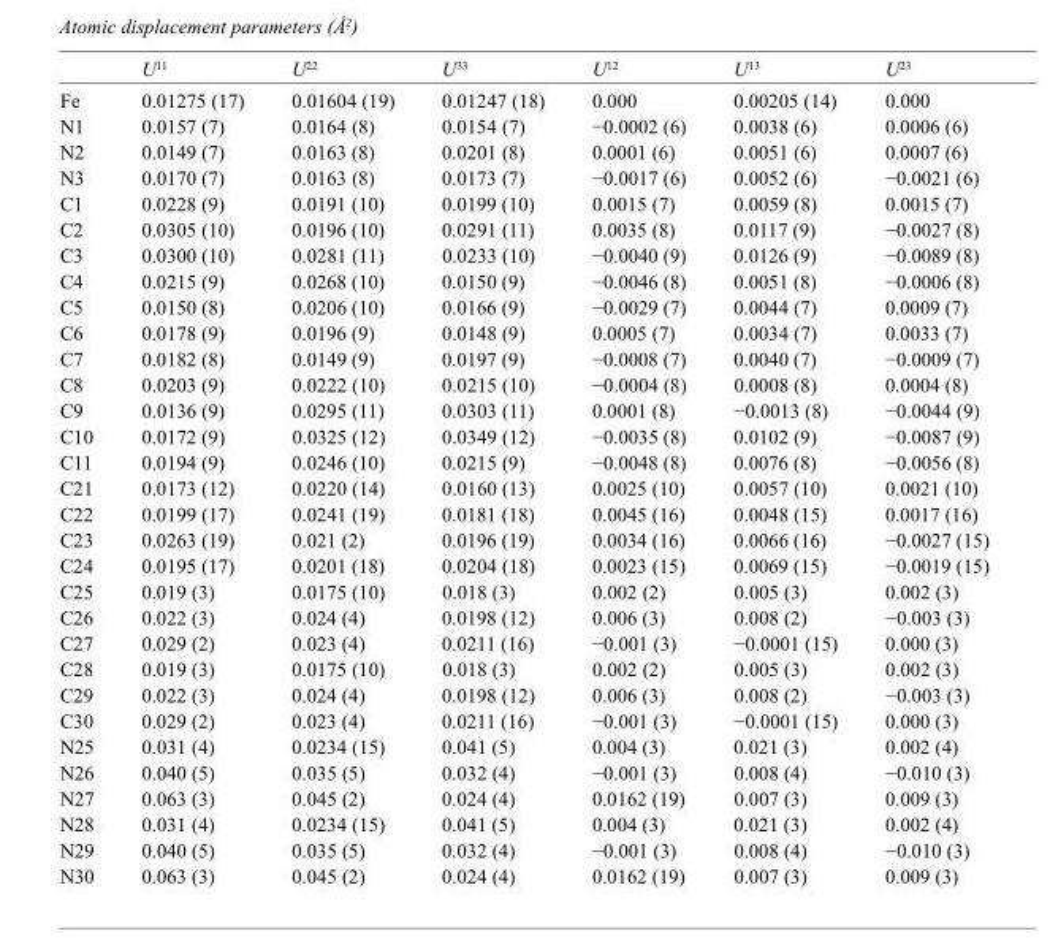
<table><thead><tr><td></td><td>U<sup>11</sup></td><td>U<sup>22</sup></td><td>U<sup>33</sup></td><td>U<sup>12</sup></td><td>U<sup>13</sup></td><td>U<sup>23</sup></td></tr></thead><tbody><tr><td>Fe</td><td>0.01275 (17)</td><td>0.01604 (19)</td><td>0.01247 (18)</td><td>0.000</td><td>0.00205 (14)</td><td>0.000</td></tr><tr><td>N1</td><td>0.0157 (7)</td><td>0.0164 (8)</td><td>0.0154 (7)</td><td>−0.0002 (6)</td><td>0.0038 (6)</td><td>0.0006 (6)</td></tr><tr><td>N2</td><td>0.0149 (7)</td><td>0.0163 (8)</td><td>0.0201 (8)</td><td>0.0001 (6)</td><td>0.0051 (6)</td><td>0.0007 (6)</td></tr><tr><td>N3</td><td>0.0170 (7)</td><td>0.0163 (8)</td><td>0.0173 (7)</td><td>−0.0017 (6)</td><td>0.0052 (6)</td><td>−0.0021 (6)</td></tr><tr><td>C1</td><td>0.0228 (9)</td><td>0.0191 (10)</td><td>0.0199 (10)</td><td>0.0015 (7)</td><td>0.0059 (8)</td><td>0.0015 (7)</td></tr><tr><td>C2</td><td>0.0305 (10)</td><td>0.0196 (10)</td><td>0.0291 (11)</td><td>0.0035 (8)</td><td>0.0117 (9)</td><td>−0.0027 (8)</td></tr><tr><td>C3</td><td>0.0300 (10)</td><td>0.0281 (11)</td><td>0.0233 (10)</td><td>−0.0040 (9)</td><td>0.0126 (9)</td><td>−0.0089 (8)</td></tr><tr><td>C4</td><td>0.0215 (9)</td><td>0.0268 (10)</td><td>0.0150 (9)</td><td>−0.0046 (8)</td><td>0.0051 (8)</td><td>−0.0006 (8)</td></tr><tr><td>C5</td><td>0.0150 (8)</td><td>0.0206 (10)</td><td>0.0166 (9)</td><td>−0.0029 (7)</td><td>0.0044 (7)</td><td>0.0009 (7)</td></tr><tr><td>C6</td><td>0.0178 (9)</td><td>0.0196 (9)</td><td>0.0148 (9)</td><td>0.0005 (7)</td><td>0.0034 (7)</td><td>0.0033 (7)</td></tr><tr><td>C7</td><td>0.0182 (8)</td><td>0.0149 (9)</td><td>0.0197 (9)</td><td>−0.0008 (7)</td><td>0.0040 (7)</td><td>−0.0009 (7)</td></tr><tr><td>C8</td><td>0.0203 (9)</td><td>0.0222 (10)</td><td>0.0215 (10)</td><td>−0.0004 (8)</td><td>0.0008 (8)</td><td>0.0004 (8)</td></tr><tr><td>C9</td><td>0.0136 (9)</td><td>0.0295 (11)</td><td>0.0303 (11)</td><td>0.0001 (8)</td><td>−0.0013 (8)</td><td>−0.0044 (9)</td></tr><tr><td>C10</td><td>0.0172 (9)</td><td>0.0325 (12)</td><td>0.0349 (12)</td><td>−0.0035 (8)</td><td>0.0102 (9)</td><td>−0.0087 (9)</td></tr><tr><td>C11</td><td>0.0194 (9)</td><td>0.0246 (10)</td><td>0.0215 (9)</td><td>−0.0048 (8)</td><td>0.0076 (8)</td><td>−0.0056 (8)</td></tr><tr><td>C21</td><td>0.0173 (12)</td><td>0.0220 (14)</td><td>0.0160 (13)</td><td>0.0025 (10)</td><td>0.0057 (10)</td><td>0.0021 (10)</td></tr><tr><td>C22</td><td>0.0199 (17)</td><td>0.0241 (19)</td><td>0.0181 (18)</td><td>0.0045 (16)</td><td>0.0048 (15)</td><td>0.0017 (16)</td></tr><tr><td>C23</td><td>0.0263 (19)</td><td>0.021 (2)</td><td>0.0196 (19)</td><td>0.0034 (16)</td><td>0.0066 (16)</td><td>−0.0027 (15)</td></tr><tr><td>C24</td><td>0.0195 (17)</td><td>0.0201 (18)</td><td>0.0204 (18)</td><td>0.0023 (15)</td><td>0.0069 (15)</td><td>−0.0019 (15)</td></tr><tr><td>C25</td><td>0.019 (3)</td><td>0.0175 (10)</td><td>0.018 (3)</td><td>0.002 (2)</td><td>0.005 (3)</td><td>0.002 (3)</td></tr><tr><td>C26</td><td>0.022 (3)</td><td>0.024 (4)</td><td>0.0198 (12)</td><td>0.006 (3)</td><td>0.008 (2)</td><td>−0.003 (3)</td></tr><tr><td>C27</td><td>0.029 (2)</td><td>0.023 (4)</td><td>0.0211 (16)</td><td>−0.001 (3)</td><td>−0.0001 (15)</td><td>0.000 (3)</td></tr><tr><td>C28</td><td>0.019 (3)</td><td>0.0175 (10)</td><td>0.018 (3)</td><td>0.002 (2)</td><td>0.005 (3)</td><td>0.002 (3)</td></tr><tr><td>C29</td><td>0.022 (3)</td><td>0.024 (4)</td><td>0.0198 (12)</td><td>0.006 (3)</td><td>0.008 (2)</td><td>−0.003 (3)</td></tr><tr><td>C30</td><td>0.029 (2)</td><td>0.023 (4)</td><td>0.0211 (16)</td><td>−0.001 (3)</td><td>−0.0001 (15)</td><td>0.000 (3)</td></tr><tr><td>N25</td><td>0.031 (4)</td><td>0.0234 (15)</td><td>0.041 (5)</td><td>0.004 (3)</td><td>0.021 (3)</td><td>0.002 (4)</td></tr><tr><td>N26</td><td>0.040 (5)</td><td>0.035 (5)</td><td>0.032 (4)</td><td>−0.001 (3)</td><td>0.008 (4)</td><td>−0.010 (3)</td></tr><tr><td>N27</td><td>0.063 (3)</td><td>0.045 (2)</td><td>0.024 (4)</td><td>0.0162 (19)</td><td>0.007 (3)</td><td>0.009 (3)</td></tr><tr><td>N28</td><td>0.031 (4)</td><td>0.0234 (15)</td><td>0.041 (5)</td><td>0.004 (3)</td><td>0.021 (3)</td><td>0.002 (4)</td></tr><tr><td>N29</td><td>0.040 (5)</td><td>0.035 (5)</td><td>0.032 (4)</td><td>−0.001 (3)</td><td>0.008 (4)</td><td>−0.010 (3)</td></tr><tr><td>N30</td><td>0.063 (3)</td><td>0.045 (2)</td><td>0.024 (4)</td><td>0.0162 (19)</td><td>0.007 (3)</td><td>0.009 (3)</td></tr></tbody></table>